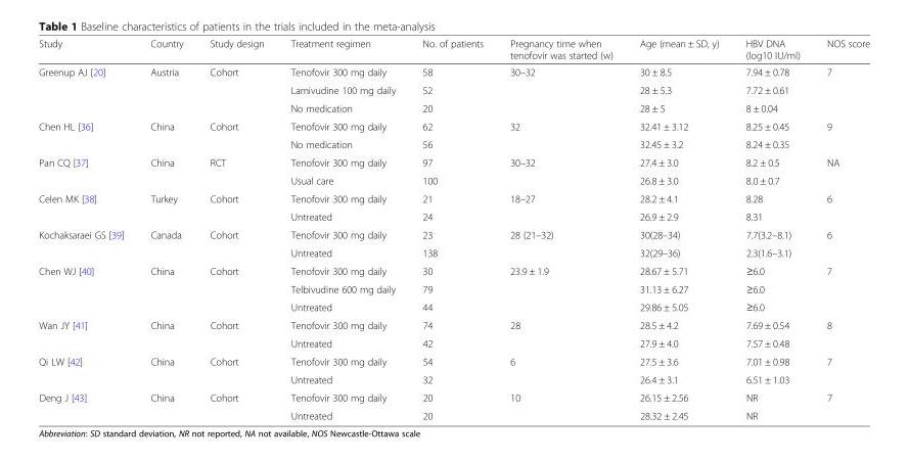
<table><thead><tr><td>Study</td><td>Country</td><td>Study design</td><td>Treatment regimen</td><td>No. of patients</td><td>Pregnancy time when tenofovir was started (w)</td><td>Age (mean ± SD, y)</td><td>HBV DNA (log10 IU/ml)</td><td>NOS score</td></tr></thead><tbody><tr><td rowspan="3">Greenup AJ [20]</td><td>Austria</td><td>Cohort</td><td>Tenofovir 300 mg daily</td><td>58</td><td>30–32</td><td>30 ± 8.5</td><td>7.94 ± 0.78</td><td>7</td></tr><tr><td></td><td></td><td>Lamivudine 100 mg daily</td><td>52</td><td></td><td>28 ± 5.3</td><td>7.72 ± 0.61</td><td></td></tr><tr><td></td><td></td><td>No medication</td><td>20</td><td></td><td>28 ± 5</td><td>8 ± 0.04</td><td></td></tr><tr><td rowspan="2">Chen HL [36]</td><td>China</td><td>Cohort</td><td>Tenofovir 300 mg daily</td><td>62</td><td>32</td><td>32.41 ± 3.12</td><td>8.25 ± 0.45</td><td>9</td></tr><tr><td></td><td></td><td>No medication</td><td>56</td><td></td><td>32.45 ± 3.2</td><td>8.24 ± 0.35</td><td></td></tr><tr><td rowspan="2">Pan CQ [37]</td><td>China</td><td>RCT</td><td>Tenofovir 300 mg daily</td><td>97</td><td>30–32</td><td>27.4 ± 3.0</td><td>8.2 ± 0.5</td><td>NA</td></tr><tr><td></td><td></td><td>Usual care</td><td>100</td><td></td><td>26.8 ± 3.0</td><td>8.0 ± 0.7</td><td></td></tr><tr><td rowspan="2">Celen MK [38]</td><td>Turkey</td><td>Cohort</td><td>Tenofovir 300 mg daily</td><td>21</td><td>18–27</td><td>28.2 ± 4.1</td><td>8.28</td><td>6</td></tr><tr><td></td><td></td><td>Untreated</td><td>24</td><td></td><td>26.9 ± 2.9</td><td>8.31</td><td></td></tr><tr><td rowspan="2">Kochaksaraei GS [39]</td><td>Canada</td><td>Cohort</td><td>Tenofovir 300 mg daily</td><td>23</td><td>28 (21–32)</td><td>30(28–34)</td><td>7.7(3.2–8.1)</td><td>6</td></tr><tr><td></td><td></td><td>Untreated</td><td>138</td><td></td><td>32(29–36)</td><td>2.3(1.6–3.1)</td><td></td></tr><tr><td rowspan="3">Chen WJ [40]</td><td>China</td><td>Cohort</td><td>Tenofovir 300 mg daily</td><td>30</td><td>23.9 ± 1.9</td><td>28.67 ± 5.71</td><td>≥6.0</td><td>7</td></tr><tr><td></td><td></td><td>Telbivudine 600 mg daily</td><td>79</td><td></td><td>31.13 ± 6.27</td><td>≥6.0</td><td></td></tr><tr><td></td><td></td><td>Untreated</td><td>44</td><td></td><td>29.86 ± 5.05</td><td>≥6.0</td><td></td></tr><tr><td rowspan="2">Wan JY [41]</td><td>China</td><td>Cohort</td><td>Tenofovir 300 mg daily</td><td>74</td><td>28</td><td>28.5 ± 4.2</td><td>7.69 ± 0.54</td><td>8</td></tr><tr><td></td><td></td><td>Untreated</td><td>42</td><td></td><td>27.9 ± 4.0</td><td>7.57 ± 0.48</td><td></td></tr><tr><td rowspan="2">Qi LW [42]</td><td>China</td><td>Cohort</td><td>Tenofovir 300 mg daily</td><td>54</td><td>6</td><td>27.5 ± 3.6</td><td>7.01 ± 0.98</td><td>7</td></tr><tr><td></td><td></td><td>Untreated</td><td>32</td><td></td><td>26.4 ± 3.1</td><td>6.51 ± 1.03</td><td></td></tr><tr><td rowspan="2">Deng J [43]</td><td>China</td><td>Cohort</td><td>Tenofovir 300 mg daily</td><td>20</td><td>10</td><td>26.15 ± 2.56</td><td>NR</td><td>7</td></tr><tr><td></td><td></td><td>Untreated</td><td>20</td><td></td><td>28.32 ± 2.45</td><td>NR</td><td></td></tr></tbody></table>